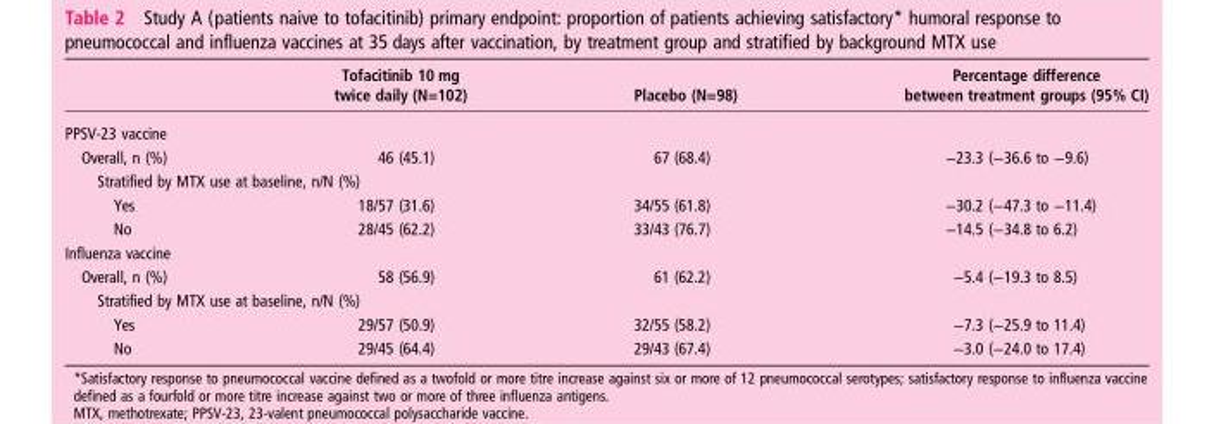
<table><thead><tr><td></td><td>Tofacitinib 10 mg twice daily (N=102)</td><td>Placebo (N=98)</td><td>Percentage difference between treatment groups (95% CI)</td></tr></thead><tbody><tr><td colspan="4">PPSV-23 vaccine</td></tr><tr><td>Overall, n (%)</td><td>46 (45.1)</td><td>67 (68.4)</td><td>−23.3 (−36.6 to −9.6)</td></tr><tr><td colspan="4">Stratified by MTX use at baseline, n/N (%)</td></tr><tr><td>Yes</td><td>18/57 (31.6)</td><td>34/55 (61.8)</td><td>−30.2 (−47.3 to −11.4)</td></tr><tr><td>No</td><td>28/45 (62.2)</td><td>33/43 (76.7)</td><td>−14.5 (−34.8 to 6.2)</td></tr><tr><td colspan="4">Influenza vaccine</td></tr><tr><td>Overall, n (%)</td><td>58 (56.9)</td><td>61 (62.2)</td><td>−5.4 (−19.3 to 8.5)</td></tr><tr><td colspan="4">Stratified by MTX use at baseline, n/N (%)</td></tr><tr><td>Yes</td><td>29/57 (50.9)</td><td>32/55 (58.2)</td><td>−7.3 (−25.9 to 11.4)</td></tr><tr><td>No</td><td>29/45 (64.4)</td><td>29/43 (67.4)</td><td>−3.0 (−24.0 to 17.4)</td></tr></tbody></table>